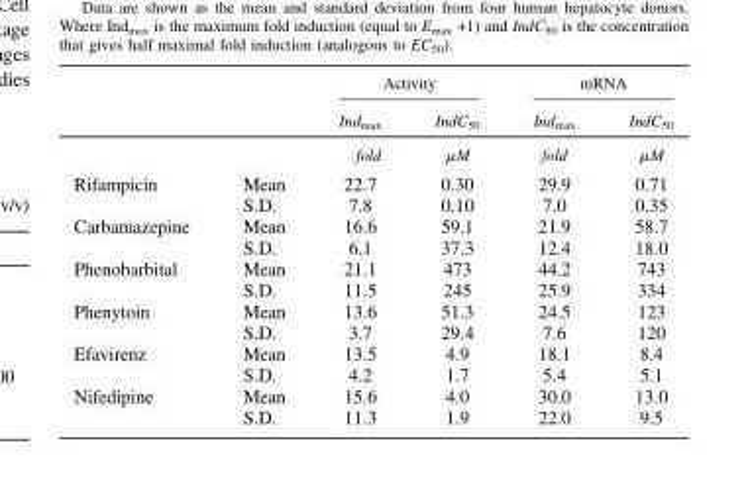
<table><thead><tr><td rowspan="2"></td><td rowspan="2"></td><td colspan="2">Activity</td><td colspan="2">mRNA</td></tr><tr><td>Ind<sub>max</sub></td><td>IndC<sub>50</sub></td><td>Ind<sub>max</sub></td><td>IndC<sub>50</sub></td></tr></thead><tbody><tr><td></td><td></td><td>fold</td><td>µM</td><td>fold</td><td>µM</td></tr><tr><td rowspan="2">Rifampicin</td><td>Mean</td><td>22.7</td><td>0.30</td><td>29.9</td><td>0.71</td></tr><tr><td>S.D.</td><td>7.8</td><td>0.10</td><td>7.0</td><td>0.35</td></tr><tr><td rowspan="2">Carbamazepine</td><td>Mean</td><td>16.6</td><td>59.1</td><td>21.9</td><td>58.7</td></tr><tr><td>S.D.</td><td>6.1</td><td>37.3</td><td>12.4</td><td>18.0</td></tr><tr><td rowspan="2">Phenobarbital</td><td>Mean</td><td>21.1</td><td>473</td><td>44.2</td><td>743</td></tr><tr><td>S.D.</td><td>11.5</td><td>245</td><td>25.9</td><td>334</td></tr><tr><td rowspan="2">Phenytoin</td><td>Mean</td><td>13.6</td><td>51.3</td><td>24.5</td><td>123</td></tr><tr><td>S.D.</td><td>3.7</td><td>29.4</td><td>7.6</td><td>120</td></tr><tr><td rowspan="2">Efavirenz</td><td>Mean</td><td>13.5</td><td>4.9</td><td>18.1</td><td>8.4</td></tr><tr><td>S.D.</td><td>4.2</td><td>1.7</td><td>5.4</td><td>5.1</td></tr><tr><td rowspan="2">Nifedipine</td><td>Mean</td><td>15.6</td><td>4.0</td><td>30.0</td><td>13.0</td></tr><tr><td>S.D.</td><td>11.3</td><td>1.9</td><td>22.0</td><td>9.5</td></tr></tbody></table>